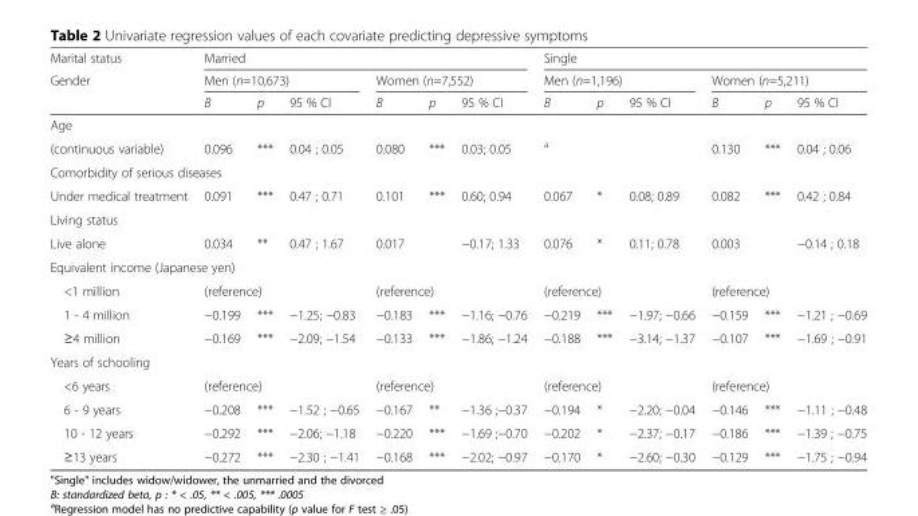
<table><thead><tr><td rowspan="3">Marital status Gender</td><td colspan="6">Married</td><td colspan="6">Single</td></tr><tr><td colspan="3">Men (n=10,673)</td><td colspan="3">Women (n=7,552)</td><td colspan="3">Men (n=1,196)</td><td colspan="3">Women (n=5,211)</td></tr><tr><td>B</td><td>p</td><td>95 % CI</td><td>B</td><td>p</td><td>95 % CI</td><td>B</td><td>p</td><td>95 % CI</td><td>B</td><td>p</td><td>95 % CI</td></tr></thead><tbody><tr><td colspan="13">Age</td></tr><tr><td>(continuous variable)</td><td>0.096</td><td>***</td><td>0.04 ; 0.05</td><td>0.080</td><td>***</td><td>0.03; 0.05</td><td><sup>a</sup></td><td></td><td></td><td>0.130</td><td>***</td><td>0.04 ; 0.06</td></tr><tr><td colspan="13">Comorbidity of serious diseases</td></tr><tr><td>Under medical treatment</td><td>0.091</td><td>***</td><td>0.47 ; 0.71</td><td>0.101</td><td>***</td><td>0.60; 0.94</td><td>0.067</td><td>*</td><td>0.08; 0.89</td><td>0.082</td><td>***</td><td>0.42 ; 0.84</td></tr><tr><td colspan="13">Living status</td></tr><tr><td>Live alone</td><td>0.034</td><td>**</td><td>0.47 ; 1.67</td><td>0.017</td><td></td><td>−0.17; 1.33</td><td>0.076</td><td>*</td><td>0.11; 0.78</td><td>0.003</td><td></td><td>−0.14 ; 0.18</td></tr><tr><td colspan="13">Equivalent income (Japanese yen)</td></tr><tr><td>&lt;1 million</td><td colspan="3">(reference)</td><td colspan="3">(reference)</td><td colspan="3">(reference)</td><td colspan="3">(reference)</td></tr><tr><td>1 - 4 million</td><td>−0.199</td><td>***</td><td>−1.25; −0.83</td><td>−0.183</td><td>***</td><td>−1.16; −0.76</td><td>−0.219</td><td>***</td><td>−1.97; −0.66</td><td>−0.159</td><td>***</td><td>−1.21 ; −0.69</td></tr><tr><td>≥4 million</td><td>−0.169</td><td>***</td><td>−2.09; −1.54</td><td>−0.133</td><td>***</td><td>−1.86; −1.24</td><td>−0.188</td><td>***</td><td>−3.14; −1.37</td><td>−0.107</td><td>***</td><td>−1.69 ; −0.91</td></tr><tr><td colspan="13">Years of schooling</td></tr><tr><td>&lt;6 years</td><td colspan="3">(reference)</td><td colspan="3">(reference)</td><td colspan="3">(reference)</td><td colspan="3">(reference)</td></tr><tr><td>6 - 9 years</td><td>−0.208</td><td>***</td><td>−1.52 ; −0.65</td><td>−0.167</td><td>**</td><td>−1.36 ;−0.37</td><td>−0.194</td><td>*</td><td>−2.20; −0.04</td><td>−0.146</td><td>***</td><td>−1.11 ; −0.48</td></tr><tr><td>10 - 12 years</td><td>−0.292</td><td>***</td><td>−2.06; −1.18</td><td>−0.220</td><td>***</td><td>−1.69 ;−0.70</td><td>−0.202</td><td>*</td><td>−2.37; −0.17</td><td>−0.186</td><td>***</td><td>−1.39 ; −0.75</td></tr><tr><td>≥13 years</td><td>−0.272</td><td>***</td><td>−2.30 ; −1.41</td><td>−0.168</td><td>***</td><td>−2.02; −0.97</td><td>−0.170</td><td>*</td><td>−2.60; −0.30</td><td>−0.129</td><td>***</td><td>−1.75 ; −0.94</td></tr></tbody></table>